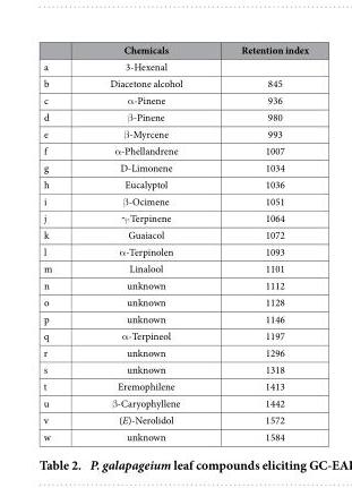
<table><thead><tr><td></td><td>Chemicals</td><td>Retention index</td></tr></thead><tbody><tr><td>a</td><td>3-Hexenal</td><td></td></tr><tr><td>b</td><td>Diacetone alcohol</td><td>845</td></tr><tr><td>c</td><td>α -Pinene</td><td>936</td></tr><tr><td>d</td><td>β -Pinene</td><td>980</td></tr><tr><td>e</td><td>β -Myrcene</td><td>993</td></tr><tr><td>f</td><td>α -Phellandrene</td><td>1007</td></tr><tr><td>g</td><td>D-Limonene</td><td>1034</td></tr><tr><td>h</td><td>Eucalyptol</td><td>1036</td></tr><tr><td>i</td><td>β -Ocimene</td><td>1051</td></tr><tr><td>j</td><td>γ -Terpinene</td><td>1064</td></tr><tr><td>k</td><td>Guaiacol</td><td>1072</td></tr><tr><td>l</td><td>α -Terpinolen</td><td>1093</td></tr><tr><td>m</td><td>Linalool</td><td>1101</td></tr><tr><td>n</td><td>unknown</td><td>1112</td></tr><tr><td>o</td><td>unknown</td><td>1128</td></tr><tr><td>p</td><td>unknown</td><td>1146</td></tr><tr><td>q</td><td>α -Terpineol</td><td>1197</td></tr><tr><td>r</td><td>unknown</td><td>1296</td></tr><tr><td>s</td><td>unknown</td><td>1318</td></tr><tr><td>t</td><td>Eremophilene</td><td>1413</td></tr><tr><td>u</td><td>β -Caryophyllene</td><td>1442</td></tr><tr><td>v</td><td>(E)-Nerolidol</td><td>1572</td></tr><tr><td>w</td><td>unknown</td><td>1584</td></tr></tbody></table>